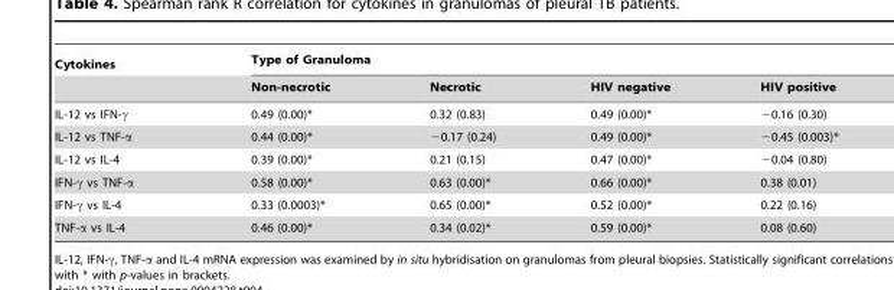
<table><thead><tr><td rowspan="2">Cytokines</td><td colspan="4">Type of Granuloma</td></tr><tr><td>Non-necrotic</td><td>Necrotic</td><td>HIV negative</td><td>HIV positive</td></tr></thead><tbody><tr><td>IL-12 vs IFN-γ</td><td>0.49 (0.00)*</td><td>0.32 (0.83)</td><td>0.49 (0.00)*</td><td>−0.16 (0.30)</td></tr><tr><td>IL-12 vs TNF-α</td><td>0.44 (0.00)*</td><td>−0.17 (0.24)</td><td>0.49 (0.00)*</td><td>−0.45 (0.003)*</td></tr><tr><td>IL-12 vs IL-4</td><td>0.39 (0.00)*</td><td>0.21 (0.15)</td><td>0.47 (0.00)*</td><td>−0.04 (0.80)</td></tr><tr><td>IFN-γ vs TNF-α</td><td>0.58 (0.00)*</td><td>0.63 (0.00)*</td><td>0.66 (0.00)*</td><td>0.38 (0.01)</td></tr><tr><td>IFN-γ vs IL-4</td><td>0.33 (0.0003)*</td><td>0.65 (0.00)*</td><td>0.52 (0.00)*</td><td>0.22 (0.16)</td></tr><tr><td>TNF-α vs IL-4</td><td>0.46 (0.00)*</td><td>0.34 (0.02)*</td><td>0.59 (0.00)*</td><td>0.08 (0.60)</td></tr></tbody></table>